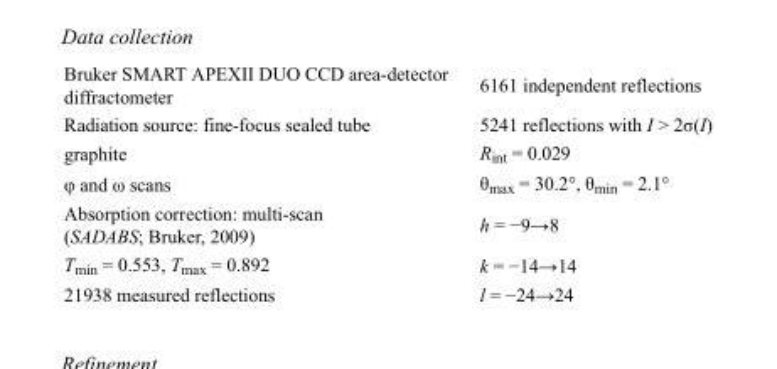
<table><tbody><tr><td>Bruker SMART APEXII DUO CCD area-detector diffractometer</td><td>6161 independent reflections</td></tr><tr><td>Radiation source: fine-focus sealed tube</td><td>5241 reflections with I &gt; 2σ(I)</td></tr><tr><td>graphite</td><td>R<sub>int</sub> = 0.029</td></tr><tr><td>φ and ω scans</td><td>θ<sub>max</sub> = 30.2°, θ<sub>min</sub> = 2.1°</td></tr><tr><td>Absorption correction: multi-scan (SADABS; Bruker, 2009)</td><td>h = −9→8</td></tr><tr><td>T<sub>min</sub> = 0.553, T<sub>max</sub> = 0.892</td><td>k = −14→14</td></tr><tr><td>21938 measured reflections</td><td>l = −24→24</td></tr></tbody></table>